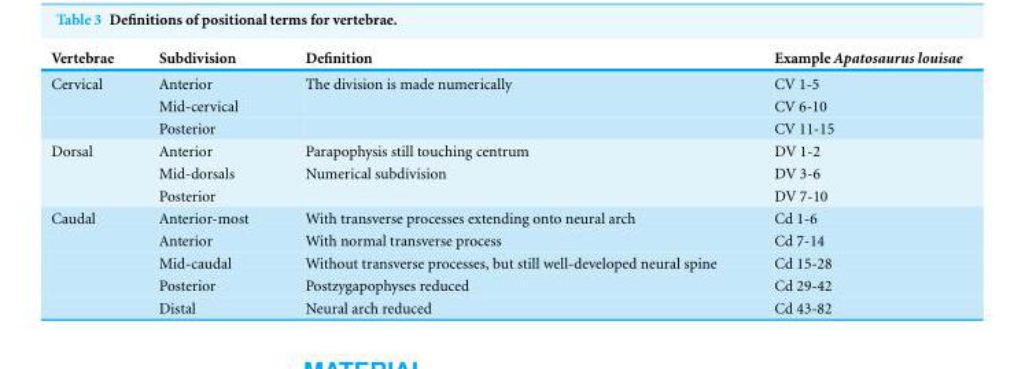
<table><thead><tr><td>Vertebrae</td><td>Subdivision</td><td>Definition</td><td>Example Apatosaurus louisae</td></tr></thead><tbody><tr><td rowspan="3">Cervical</td><td>Anterior</td><td>The division is made numerically</td><td>CV 1-5</td></tr><tr><td>Mid-cervical</td><td></td><td>CV 6-10</td></tr><tr><td>Posterior</td><td></td><td>CV 11-15</td></tr><tr><td rowspan="3">Dorsal</td><td>Anterior</td><td>Parapophysis still touching centrum</td><td>DV 1-2</td></tr><tr><td>Mid-dorsals</td><td>Numerical subdivision</td><td>DV 3-6</td></tr><tr><td>Posterior</td><td></td><td>DV 7-10</td></tr><tr><td rowspan="5">Caudal</td><td>Anterior-most</td><td>With transverse processes extending onto neural arch</td><td>Cd 1-6</td></tr><tr><td>Anterior</td><td>With normal transverse process</td><td>Cd 7-14</td></tr><tr><td>Mid-caudal</td><td>Without transverse processes, but still well-developed neural spine</td><td>Cd 15-28</td></tr><tr><td>Posterior</td><td>Postzygapophyses reduced</td><td>Cd 29-42</td></tr><tr><td>Distal</td><td>Neural arch reduced</td><td>Cd 43-82</td></tr></tbody></table>